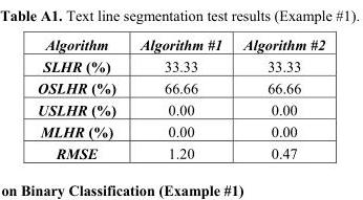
<table><thead><tr><td>Algorithm</td><td>Algorithm #1</td><td>Algorithm #2</td></tr></thead><tbody><tr><td>SLHR (%)</td><td>33.33</td><td>33.33</td></tr><tr><td>OSLHR (%)</td><td>66.66</td><td>66.66</td></tr><tr><td>USLHR (%)</td><td>0.00</td><td>0.00</td></tr><tr><td>MLHR (%)</td><td>0.00</td><td>0.00</td></tr><tr><td>RMSE</td><td>1.20</td><td>0.47</td></tr></tbody></table>